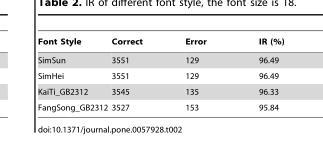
<table><thead><tr><td>Font Style</td><td>Correct</td><td>Error</td><td>IR (%)</td></tr></thead><tbody><tr><td>SimSun</td><td>3551</td><td>129</td><td>96.49</td></tr><tr><td>SimHei</td><td>3551</td><td>129</td><td>96.49</td></tr><tr><td>KaiTi_GB2312</td><td>3545</td><td>135</td><td>96.33</td></tr><tr><td>FangSong_GB2312</td><td>3527</td><td>153</td><td>95.84</td></tr></tbody></table>